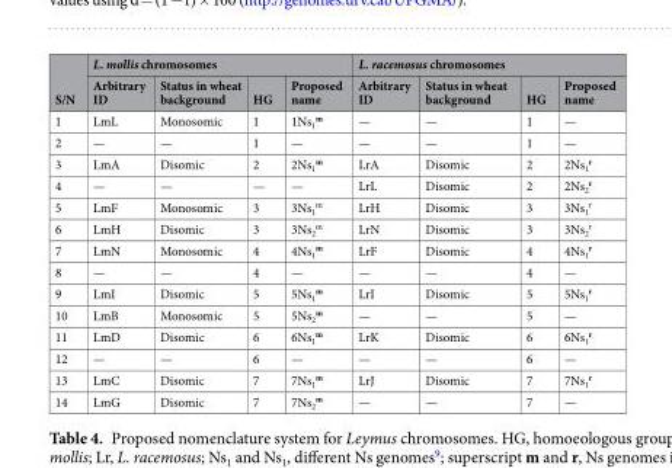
<table><thead><tr><td rowspan="2">S/N</td><td colspan="4">L. mollis chromosomes</td><td colspan="4">L. racemosus chromosomes</td></tr><tr><td>Arbitrary ID</td><td>Status in wheat background</td><td>HG</td><td>Proposed name</td><td>Arbitrary ID</td><td>Status in wheat background</td><td>HG</td><td>Proposed name</td></tr></thead><tbody><tr><td>1</td><td>LmL</td><td>Monosomic</td><td>1</td><td>1Ns<sub>1</sub> <sup>m</sup></td><td>—</td><td>—</td><td>1</td><td>—</td></tr><tr><td>2</td><td>—</td><td>—</td><td>1</td><td>—</td><td>—</td><td>—</td><td>1</td><td>—</td></tr><tr><td>3</td><td>LmA</td><td>Disomic</td><td>2</td><td>2Ns<sub>1</sub> <sup>m</sup></td><td>LrA</td><td>Disomic</td><td>2</td><td>2Ns<sub>1</sub> <sup>r</sup></td></tr><tr><td>4</td><td>—</td><td>—</td><td>—</td><td>—</td><td>LrL</td><td>Disomic</td><td>2</td><td>2Ns<sub>2</sub> <sup>r</sup></td></tr><tr><td>5</td><td>LmF</td><td>Monosomic</td><td>3</td><td>3Ns<sub>1</sub> <sup>m</sup></td><td>LrH</td><td>Disomic</td><td>3</td><td>3Ns<sub>1</sub> <sup>r</sup></td></tr><tr><td>6</td><td>LmH</td><td>Disomic</td><td>3</td><td>3Ns<sub>2</sub> <sup>m</sup></td><td>LrN</td><td>Disomic</td><td>3</td><td>3Ns<sub>2</sub> <sup>r</sup></td></tr><tr><td>7</td><td>LmN</td><td>Monosomic</td><td>4</td><td>4Ns<sub>1</sub> <sup>m</sup></td><td>LrF</td><td>Disomic</td><td>4</td><td>4Ns<sub>1</sub> <sup>r</sup></td></tr><tr><td>8</td><td>—</td><td>—</td><td>4</td><td>—</td><td>—</td><td>—</td><td>4</td><td>—</td></tr><tr><td>9</td><td>LmI</td><td>Disomic</td><td>5</td><td>5Ns<sub>1</sub> <sup>m</sup></td><td>LrI</td><td>Disomic</td><td>5</td><td>5Ns<sub>1</sub> <sup>r</sup></td></tr><tr><td>10</td><td>LmB</td><td>Monosomic</td><td>5</td><td>5Ns<sub>2</sub> <sup>m</sup></td><td>—</td><td>—</td><td>5</td><td>—</td></tr><tr><td>11</td><td>LmD</td><td>Disomic</td><td>6</td><td>6Ns<sub>1</sub> <sup>m</sup></td><td>LrK</td><td>Disomic</td><td>6</td><td>6Ns<sub>1</sub> <sup>r</sup></td></tr><tr><td>12</td><td>—</td><td>—</td><td>6</td><td>—</td><td>—</td><td>—</td><td>6</td><td>—</td></tr><tr><td>13</td><td>LmC</td><td>Disomic</td><td>7</td><td>7Ns<sub>1</sub> <sup>m</sup></td><td>LrJ</td><td>Disomic</td><td>7</td><td>7Ns<sub>1</sub> <sup>r</sup></td></tr><tr><td>14</td><td>LmG</td><td>Disomic</td><td>7</td><td>7Ns<sub>2</sub> <sup>m</sup></td><td>—</td><td>—</td><td>7</td><td>—</td></tr></tbody></table>